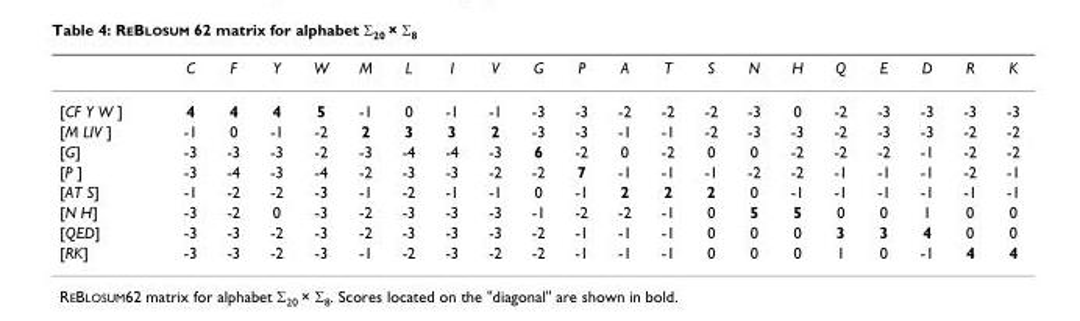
<table><thead><tr><td></td><td>C</td><td>F</td><td>Y</td><td>W</td><td>M</td><td>L</td><td>I</td><td>V</td><td>G</td><td>P</td><td>A</td><td>T</td><td>S</td><td>N</td><td>H</td><td>Q</td><td>E</td><td>D</td><td>R</td><td>K</td></tr></thead><tbody><tr><td>[CF Y W ]</td><td>4</td><td>4</td><td>4</td><td>5</td><td>-1</td><td>0</td><td>-1</td><td>-1</td><td>-3</td><td>-3</td><td>-2</td><td>-2</td><td>-2</td><td>-3</td><td>0</td><td>-2</td><td>-3</td><td>-3</td><td>-3</td><td>-3</td></tr><tr><td>[M LIV ]</td><td>-1</td><td>0</td><td>-1</td><td>-2</td><td>2</td><td>3</td><td>3</td><td>2</td><td>-3</td><td>-3</td><td>-1</td><td>-1</td><td>-2</td><td>-3</td><td>-3</td><td>-2</td><td>-3</td><td>-3</td><td>-2</td><td>-2</td></tr><tr><td>[G]</td><td>-3</td><td>-3</td><td>-3</td><td>-2</td><td>-3</td><td>-4</td><td>-4</td><td>-3</td><td>6</td><td>-2</td><td>0</td><td>-2</td><td>0</td><td>0</td><td>-2</td><td>-2</td><td>-2</td><td>-1</td><td>-2</td><td>-2</td></tr><tr><td>[P ]</td><td>-3</td><td>-4</td><td>-3</td><td>-4</td><td>-2</td><td>-3</td><td>-3</td><td>-2</td><td>-2</td><td>7</td><td>-1</td><td>-1</td><td>-1</td><td>-2</td><td>-2</td><td>-1</td><td>-1</td><td>-1</td><td>-2</td><td>-1</td></tr><tr><td>[AT S]</td><td>-1</td><td>-2</td><td>-2</td><td>-3</td><td>-1</td><td>-2</td><td>-1</td><td>-1</td><td>0</td><td>-1</td><td>2</td><td>2</td><td>2</td><td>0</td><td>-1</td><td>-1</td><td>-1</td><td>-1</td><td>-1</td><td>-1</td></tr><tr><td>[N H]</td><td>-3</td><td>-2</td><td>0</td><td>-3</td><td>-2</td><td>-3</td><td>-3</td><td>-3</td><td>-1</td><td>-2</td><td>-2</td><td>-1</td><td>0</td><td>5</td><td>5</td><td>0</td><td>0</td><td>1</td><td>0</td><td>0</td></tr><tr><td>[QED]</td><td>-3</td><td>-3</td><td>-2</td><td>-3</td><td>-2</td><td>-3</td><td>-3</td><td>-3</td><td>-2</td><td>-1</td><td>-1</td><td>-1</td><td>0</td><td>0</td><td>0</td><td>3</td><td>3</td><td>4</td><td>0</td><td>0</td></tr><tr><td>[RK]</td><td>-3</td><td>-3</td><td>-2</td><td>-3</td><td>-1</td><td>-2</td><td>-3</td><td>-2</td><td>-2</td><td>-1</td><td>-1</td><td>-1</td><td>0</td><td>0</td><td>0</td><td>1</td><td>0</td><td>-1</td><td>4</td><td>4</td></tr></tbody></table>